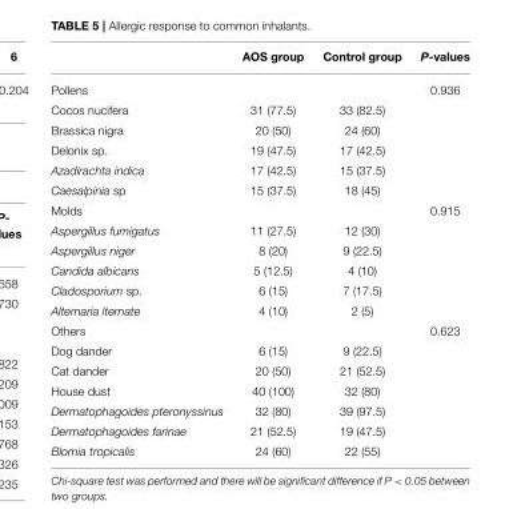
<table><thead><tr><td></td><td>AOS group</td><td>Control group</td><td>P-values</td></tr></thead><tbody><tr><td>Pollens</td><td></td><td></td><td>0.936</td></tr><tr><td>Cocos nucifera</td><td>31 (77.5)</td><td>33 (82.5)</td><td></td></tr><tr><td>Brassica nigra</td><td>20 (50)</td><td>24 (60)</td><td></td></tr><tr><td>Delonix sp.</td><td>19 (47.5)</td><td>17 (42.5)</td><td></td></tr><tr><td>Azadirachta indica</td><td>17 (42.5)</td><td>15 (37.5)</td><td></td></tr><tr><td>Caesalpinia sp</td><td>15 (37.5)</td><td>18 (45)</td><td></td></tr><tr><td>Molds</td><td></td><td></td><td>0.915</td></tr><tr><td>Aspergillus fumigatus</td><td>11 (27.5)</td><td>12 (30)</td><td></td></tr><tr><td>Aspergillus niger</td><td>8 (20)</td><td>9 (22.5)</td><td></td></tr><tr><td>Candida albicans</td><td>5 (12.5)</td><td>4 (10)</td><td></td></tr><tr><td>Cladosporium sp.</td><td>6 (15)</td><td>7 (17.5)</td><td></td></tr><tr><td>Alternaria lternate</td><td>4 (10)</td><td>2 (5)</td><td></td></tr><tr><td>Others</td><td></td><td></td><td>0.623</td></tr><tr><td>Dog dander</td><td>6 (15)</td><td>9 (22.5)</td><td></td></tr><tr><td>Cat dander</td><td>20 (50)</td><td>21 (52.5)</td><td></td></tr><tr><td>House dust</td><td>40 (100)</td><td>32 (80)</td><td></td></tr><tr><td>Dermatophagoides pteronyssinus</td><td>32 (80)</td><td>39 (97.5)</td><td></td></tr><tr><td>Dermatophagoides farinae</td><td>21 (52.5)</td><td>19 (47.5)</td><td></td></tr><tr><td>Blomia tropicalis</td><td>24 (60)</td><td>22 (55)</td><td></td></tr></tbody></table>